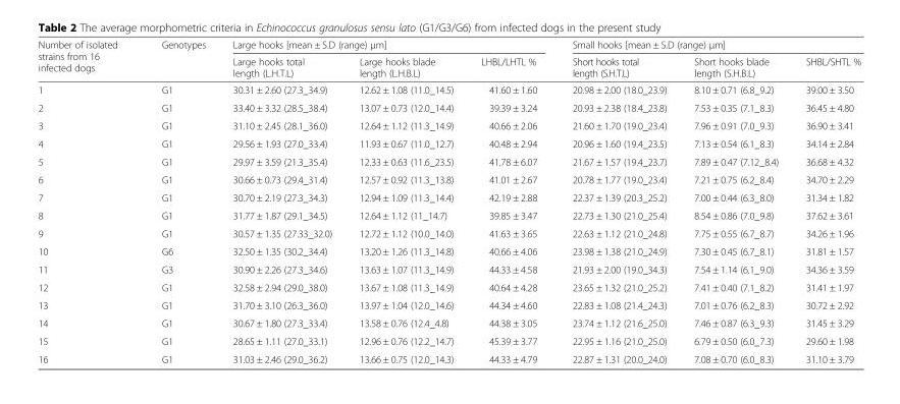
<table><thead><tr><td rowspan="2">Number of isolated strains from 16 infected dogs</td><td rowspan="2">Genotypes</td><td colspan="3">Large hooks [mean ± S.D (range) μm]</td><td colspan="3">Small hooks [mean ± S.D (range) μm]</td></tr><tr><td>Large hooks total length (L.H.T.L)</td><td>Large hooks blade length (L.H.B.L)</td><td>LHBL/LHTL %</td><td>Short hooks total length (S.H.T.L)</td><td>Short hooks blade length (S.H.B.L)</td><td>SHBL/SHTL %</td></tr></thead><tbody><tr><td>1</td><td>G1</td><td>30.31 ± 2.60 (27.3_34.9)</td><td>12.62 ± 1.08 (11.0_14.5)</td><td>41.60 ± 1.60</td><td>20.98 ± 2.00 (18.0_23.9)</td><td>8.10 ± 0.71 (6.8_9.2)</td><td>39.00 ± 3.50</td></tr><tr><td>2</td><td>G1</td><td>33.40 ± 3.32 (28.5_38.4)</td><td>13.07 ± 0.73 (12.0_14.4)</td><td>39.39 ± 3.24</td><td>20.93 ± 2.38 (18.4_23.8)</td><td>7.53 ± 0.35 (7.1_8.3)</td><td>36.45 ± 4.80</td></tr><tr><td>3</td><td>G1</td><td>31.10 ± 2.45 (28.1_36.0)</td><td>12.64 ± 1.12 (11.3_14.9)</td><td>40.66 ± 2.06</td><td>21.60 ± 1.70 (19.0_23.4)</td><td>7.96 ± 0.91 (7.0_9.3)</td><td>36.90 ± 3.41</td></tr><tr><td>4</td><td>G1</td><td>29.56 ± 1.93 (27.0_33.4)</td><td>11.93 ± 0.67 (11.0_12.7)</td><td>40.48 ± 2.94</td><td>20.96 ± 1.60 (19.4_23.5)</td><td>7.13 ± 0.54 (6.1_8.3)</td><td>34.14 ± 2.84</td></tr><tr><td>5</td><td>G1</td><td>29.97 ± 3.59 (21.3_35.4)</td><td>12.33 ± 0.63 (11.6_23.5)</td><td>41.78 ± 6.07</td><td>21.67 ± 1.57 (19.4_23.7)</td><td>7.89 ± 0.47 (7.12_8.4)</td><td>36.68 ± 4.32</td></tr><tr><td>6</td><td>G1</td><td>30.66 ± 0.73 (29.4_31.4)</td><td>12.57 ± 0.92 (11.3_13.8)</td><td>41.01 ± 2.67</td><td>20.78 ± 1.77 (19.0_23.4)</td><td>7.21 ± 0.75 (6.2_8.4)</td><td>34.70 ± 2.29</td></tr><tr><td>7</td><td>G1</td><td>30.70 ± 2.19 (27.3_34.3)</td><td>12.94 ± 1.09 (11.3_14.4)</td><td>42.19 ± 2.88</td><td>22.37 ± 1.39 (20.3_25.2)</td><td>7.00 ± 0.44 (6.3_8.0)</td><td>31.34 ± 1.82</td></tr><tr><td>8</td><td>G1</td><td>31.77 ± 1.87 (29.1_34.5)</td><td>12.64 ± 1.12 (11_14.7)</td><td>39.85 ± 3.47</td><td>22.73 ± 1.30 (21.0_25.4)</td><td>8.54 ± 0.86 (7.0_9.8)</td><td>37.62 ± 3.61</td></tr><tr><td>9</td><td>G1</td><td>30.57 ± 1.35 (27.33_32.0)</td><td>12.72 ± 1.12 (10.0_14.0)</td><td>41.63 ± 3.65</td><td>22.63 ± 1.12 (21.0_24.8)</td><td>7.75 ± 0.55 (6.7_8.7)</td><td>34.26 ± 1.96</td></tr><tr><td>10</td><td>G6</td><td>32.50 ± 1.35 (30.2_34.4)</td><td>13.20 ± 1.26 (11.3_14.8)</td><td>40.66 ± 4.06</td><td>23.98 ± 1.38 (21.0_24.9)</td><td>7.30 ± 0.45 (6.7_8.1)</td><td>31.81 ± 1.57</td></tr><tr><td>11</td><td>G3</td><td>30.90 ± 2.26 (27.3_34.6)</td><td>13.63 ± 1.07 (11.3_14.9)</td><td>44.33 ± 4.58</td><td>21.93 ± 2.00 (19.0_34.3)</td><td>7.54 ± 1.14 (6.1_9.0)</td><td>34.36 ± 3.59</td></tr><tr><td>12</td><td>G1</td><td>32.58 ± 2.94 (29.0_38.0)</td><td>13.67 ± 1.08 (11.3_14.9)</td><td>40.64 ± 4.28</td><td>23.65 ± 1.32 (21.0_25.2)</td><td>7.41 ± 0.40 (7.1_8.2)</td><td>31.41 ± 1.97</td></tr><tr><td>13</td><td>G1</td><td>31.70 ± 3.10 (26.3_36.0)</td><td>13.97 ± 1.04 (12.0_14.6)</td><td>44.34 ± 4.60</td><td>22.83 ± 1.08 (21.4_24.3)</td><td>7.01 ± 0.76 (6.2_8.3)</td><td>30.72 ± 2.92</td></tr><tr><td>14</td><td>G1</td><td>30.67 ± 1.80 (27.3_33.4)</td><td>13.58 ± 0.76 (12.4_4.8)</td><td>44.38 ± 3.05</td><td>23.74 ± 1.12 (21.6_25.0)</td><td>7.46 ± 0.87 (6.3_9.3)</td><td>31.45 ± 3.29</td></tr><tr><td>15</td><td>G1</td><td>28.65 ± 1.11 (27.0_33.1)</td><td>12.96 ± 0.76 (12.2_14.7)</td><td>45.39 ± 3.77</td><td>22.95 ± 1.16 (21.0_25.0)</td><td>6.79 ± 0.50 (6.0_7.3)</td><td>29.60 ± 1.98</td></tr><tr><td>16</td><td>G1</td><td>31.03 ± 2.46 (29.0_36.2)</td><td>13.66 ± 0.75 (12.0_14.3)</td><td>44.33 ± 4.79</td><td>22.87 ± 1.31 (20.0_24.0)</td><td>7.08 ± 0.70 (6.0_8.3)</td><td>31.10 ± 3.79</td></tr></tbody></table>